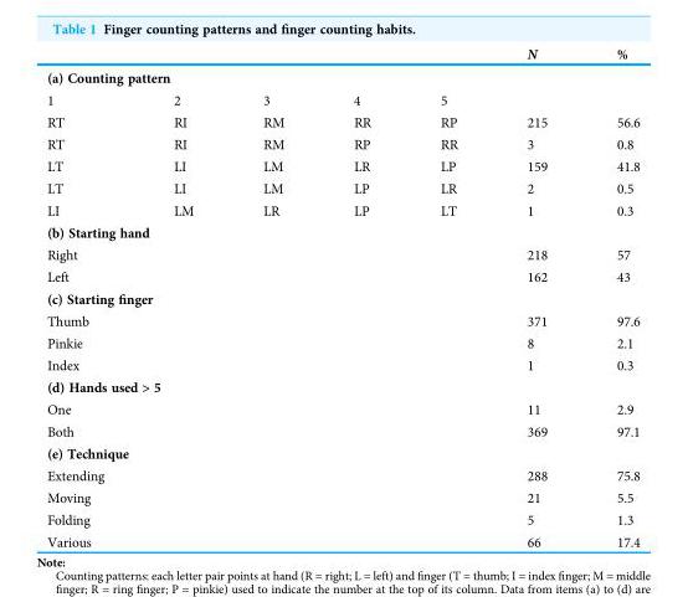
<table><thead><tr><td></td><td></td><td></td><td></td><td></td><td>N</td><td>%</td></tr></thead><tbody><tr><td colspan="7">(a) Counting pattern</td></tr><tr><td>1</td><td>2</td><td>3</td><td>4</td><td>5</td><td></td><td></td></tr><tr><td>RT</td><td>RI</td><td>RM</td><td>RR</td><td>RP</td><td>215</td><td>56.6</td></tr><tr><td>RT</td><td>RI</td><td>RM</td><td>RP</td><td>RR</td><td>3</td><td>0.8</td></tr><tr><td>LT</td><td>LI</td><td>LM</td><td>LR</td><td>LP</td><td>159</td><td>41.8</td></tr><tr><td>LT</td><td>LI</td><td>LM</td><td>LP</td><td>LR</td><td>2</td><td>0.5</td></tr><tr><td>LI</td><td>LM</td><td>LR</td><td>LP</td><td>LT</td><td>1</td><td>0.3</td></tr><tr><td colspan="7">(b) Starting hand</td></tr><tr><td>Right</td><td></td><td></td><td></td><td></td><td>218</td><td>57</td></tr><tr><td>Left</td><td></td><td></td><td></td><td></td><td>162</td><td>43</td></tr><tr><td colspan="7">(c) Starting finger</td></tr><tr><td>Thumb</td><td></td><td></td><td></td><td></td><td>371</td><td>97.6</td></tr><tr><td>Pinkie</td><td></td><td></td><td></td><td></td><td>8</td><td>2.1</td></tr><tr><td>Index</td><td></td><td></td><td></td><td></td><td>1</td><td>0.3</td></tr><tr><td colspan="7">(d) Hands used &gt; 5</td></tr><tr><td>One</td><td></td><td></td><td></td><td></td><td>11</td><td>2.9</td></tr><tr><td>Both</td><td></td><td></td><td></td><td></td><td>369</td><td>97.1</td></tr><tr><td colspan="7">(e) Technique</td></tr><tr><td>Extending</td><td></td><td></td><td></td><td></td><td>288</td><td>75.8</td></tr><tr><td>Moving</td><td></td><td></td><td></td><td></td><td>21</td><td>5.5</td></tr><tr><td>Folding</td><td></td><td></td><td></td><td></td><td>5</td><td>1.3</td></tr><tr><td>Various</td><td></td><td></td><td></td><td></td><td>66</td><td>17.4</td></tr></tbody></table>